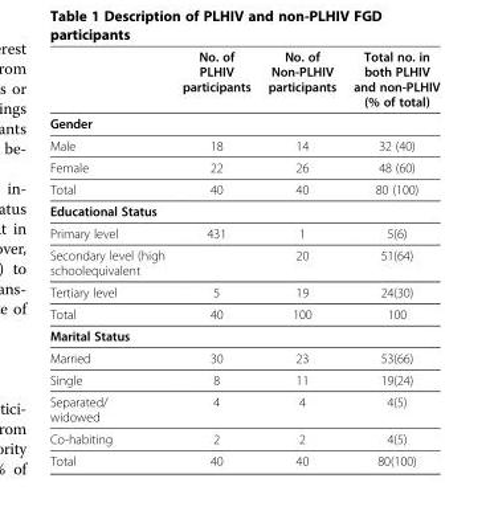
<table><thead><tr><td></td><td>No. of PLHIV participants</td><td>No. of Non-PLHIV participants</td><td>Total no. in both PLHIV and non-PLHIV (% of total)</td></tr></thead><tbody><tr><td colspan="4">Gender</td></tr><tr><td>Male</td><td>18</td><td>14</td><td>32 (40)</td></tr><tr><td>Female</td><td>22</td><td>26</td><td>48 (60)</td></tr><tr><td>Total</td><td>40</td><td>40</td><td>80 (100)</td></tr><tr><td colspan="4">Educational Status</td></tr><tr><td>Primary level</td><td>431</td><td>1</td><td>5(6)</td></tr><tr><td>Secondary level (high schoolequivalent</td><td></td><td>20</td><td>51(64)</td></tr><tr><td>Tertiary level</td><td>5</td><td>19</td><td>24(30)</td></tr><tr><td>Total</td><td>40</td><td>100</td><td>100</td></tr><tr><td colspan="4">Marital Status</td></tr><tr><td>Married</td><td>30</td><td>23</td><td>53(66)</td></tr><tr><td>Single</td><td>8</td><td>11</td><td>19(24)</td></tr><tr><td>Separated/ widowed</td><td>4</td><td>4</td><td>4(5)</td></tr><tr><td>Co-habiting</td><td>2</td><td>2</td><td>4(5)</td></tr><tr><td>Total</td><td>40</td><td>40</td><td>80(100)</td></tr></tbody></table>